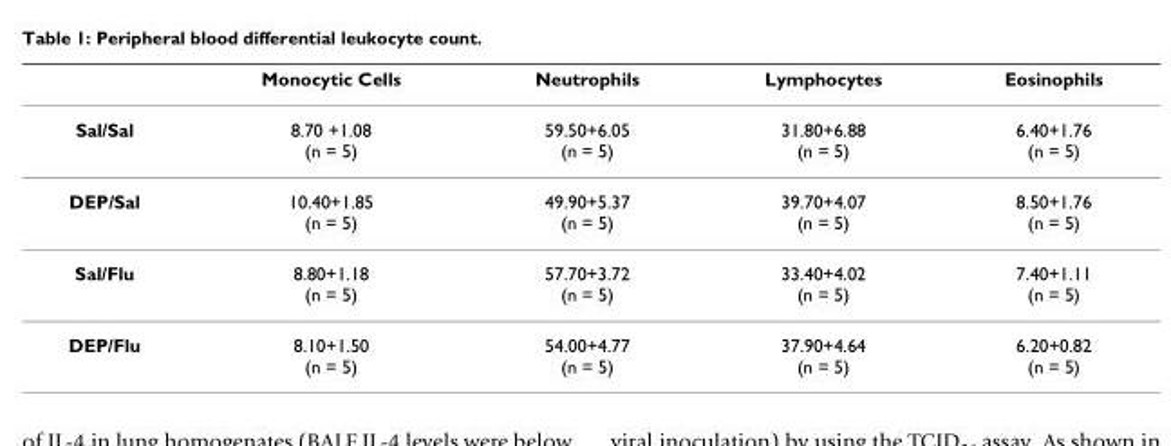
<table><thead><tr><td></td><td>Monocytic Cells</td><td>Neutrophils</td><td>Lymphocytes</td><td>Eosinophils</td></tr></thead><tbody><tr><td>Sal/Sal</td><td>8.70 +1.08 (n = 5)</td><td>59.50+6.05 (n = 5)</td><td>31.80+6.88 (n = 5)</td><td>6.40+1.76 (n = 5)</td></tr><tr><td>DEP/Sal</td><td>10.40+1.85 (n = 5)</td><td>49.90+5.37 (n = 5)</td><td>39.70+4.07 (n = 5)</td><td>8.50+1.76 (n = 5)</td></tr><tr><td>Sal/Flu</td><td>8.80+1.18 (n = 5)</td><td>57.70+3.72 (n = 5)</td><td>33.40+4.02 (n = 5)</td><td>7.40+1.11 (n = 5)</td></tr><tr><td>DEP/Flu</td><td>8.10+1.50 (n = 5)</td><td>54.00+4.77 (n = 5)</td><td>37.90+4.64 (n = 5)</td><td>6.20+0.82 (n = 5)</td></tr></tbody></table>